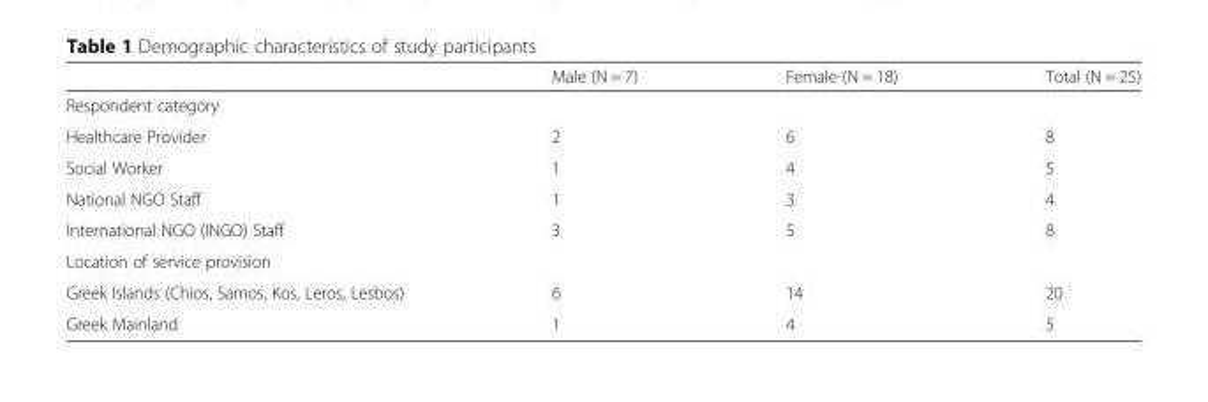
<table><thead><tr><td></td><td>Male (N = 7)</td><td>Female (N = 18)</td><td>Total (N = 25)</td></tr></thead><tbody><tr><td colspan="4">Respondent category</td></tr><tr><td>Healthcare Provider</td><td>2</td><td>6</td><td>8</td></tr><tr><td>Social Worker</td><td>1</td><td>4</td><td>5</td></tr><tr><td>National NGO Staff</td><td>1</td><td>3</td><td>4</td></tr><tr><td>International NGO (INGO) Staff</td><td>3</td><td>5</td><td>8</td></tr><tr><td colspan="4">Location of service provision</td></tr><tr><td>Greek Islands (Chios, Samos, Kos, Leros, Lesbos)</td><td>6</td><td>14</td><td>20</td></tr><tr><td>Greek Mainland</td><td>1</td><td>4</td><td>5</td></tr></tbody></table>